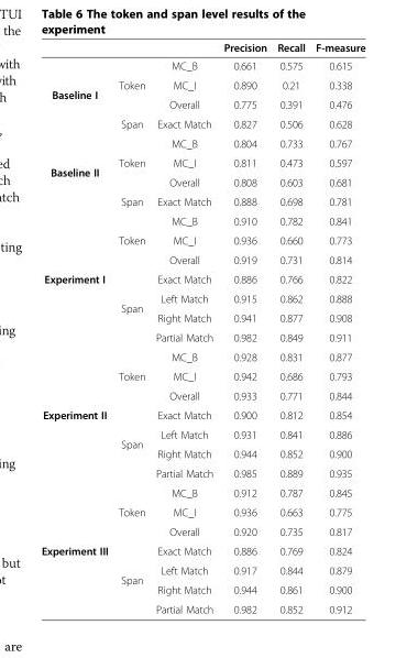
<table><thead><tr><td></td><td></td><td></td><td>Precision</td><td>Recall</td><td>F-measure</td></tr></thead><tbody><tr><td rowspan="4">Baseline I</td><td rowspan="3">Token</td><td>MC_B</td><td>0.661</td><td>0.575</td><td>0.615</td></tr><tr><td>MC_I</td><td>0.890</td><td>0.21</td><td>0.338</td></tr><tr><td>Overall</td><td>0.775</td><td>0.391</td><td>0.476</td></tr><tr><td>Span</td><td>Exact Match</td><td>0.827</td><td>0.506</td><td>0.628</td></tr><tr><td rowspan="4">Baseline II</td><td rowspan="3">Token</td><td>MC_B</td><td>0.804</td><td>0.733</td><td>0.767</td></tr><tr><td>MC_I</td><td>0.811</td><td>0.473</td><td>0.597</td></tr><tr><td>Overall</td><td>0.808</td><td>0.603</td><td>0.681</td></tr><tr><td>Span</td><td>Exact Match</td><td>0.888</td><td>0.698</td><td>0.781</td></tr><tr><td rowspan="7">Experiment I</td><td rowspan="3">Token</td><td>MC_B</td><td>0.910</td><td>0.782</td><td>0.841</td></tr><tr><td>MC_I</td><td>0.936</td><td>0.660</td><td>0.773</td></tr><tr><td>Overall</td><td>0.919</td><td>0.731</td><td>0.814</td></tr><tr><td rowspan="4">Span</td><td>Exact Match</td><td>0.886</td><td>0.766</td><td>0.822</td></tr><tr><td>Left Match</td><td>0.915</td><td>0.862</td><td>0.888</td></tr><tr><td>Right Match</td><td>0.941</td><td>0.877</td><td>0.908</td></tr><tr><td>Partial Match</td><td>0.982</td><td>0.849</td><td>0.911</td></tr><tr><td rowspan="7">Experiment II</td><td rowspan="3">Token</td><td>MC_B</td><td>0.928</td><td>0.831</td><td>0.877</td></tr><tr><td>MC_I</td><td>0.942</td><td>0.686</td><td>0.793</td></tr><tr><td>Overall</td><td>0.933</td><td>0.771</td><td>0.844</td></tr><tr><td rowspan="4">Span</td><td>Exact Match</td><td>0.900</td><td>0.812</td><td>0.854</td></tr><tr><td>Left Match</td><td>0.931</td><td>0.841</td><td>0.886</td></tr><tr><td>Right Match</td><td>0.944</td><td>0.852</td><td>0.900</td></tr><tr><td>Partial Match</td><td>0.985</td><td>0.889</td><td>0.935</td></tr><tr><td rowspan="7">Experiment III</td><td rowspan="3">Token</td><td>MC_B</td><td>0.912</td><td>0.787</td><td>0.845</td></tr><tr><td>MC_I</td><td>0.936</td><td>0.663</td><td>0.775</td></tr><tr><td>Overall</td><td>0.920</td><td>0.735</td><td>0.817</td></tr><tr><td rowspan="3">Span</td><td>Exact Match</td><td>0.886</td><td>0.769</td><td>0.824</td></tr><tr><td>Left Match</td><td>0.917</td><td>0.844</td><td>0.879</td></tr><tr><td>Right Match</td><td>0.944</td><td>0.861</td><td>0.900</td></tr><tr><td></td><td>Partial Match</td><td>0.982</td><td>0.852</td><td>0.912</td></tr></tbody></table>